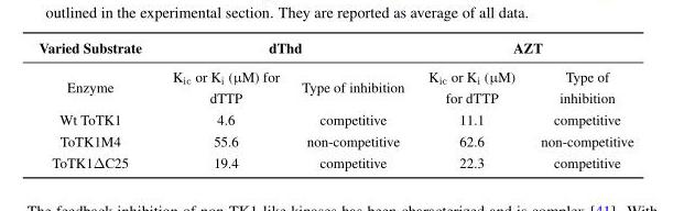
<table><thead><tr><td rowspan="2">Varied Substrate Enzyme</td><td colspan="2">dThd</td><td colspan="2">AZT</td></tr><tr><td>K<sub>ic</sub> or K<sub>i</sub> (µM) for dTTP</td><td>Type of inhibition</td><td>K<sub>ic</sub> or K<sub>i</sub> (µM) for dTTP</td><td>Type of inhibition</td></tr></thead><tbody><tr><td>Wt ToTK1</td><td>4.6</td><td>competitive</td><td>11.1</td><td>competitive</td></tr><tr><td>ToTK1M4</td><td>55.6</td><td>non-competitive</td><td>62.6</td><td>non-competitive</td></tr><tr><td>ToTK1∆C25</td><td>19.4</td><td>competitive</td><td>22.3</td><td>competitive</td></tr></tbody></table>